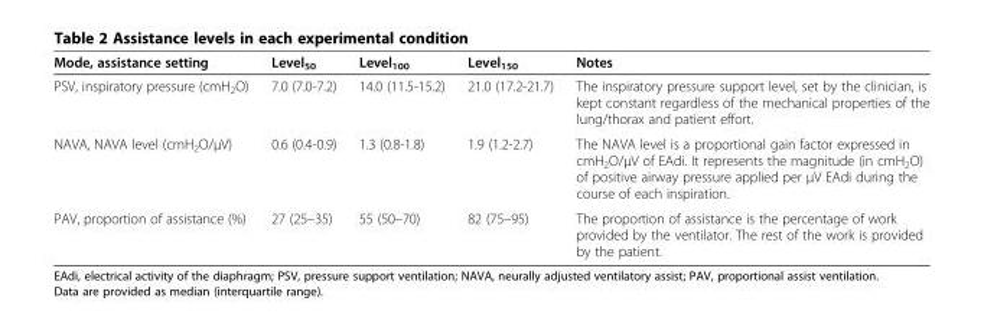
<table><thead><tr><td>Mode, assistance setting</td><td>Level<sub>50</sub></td><td>Level<sub>100</sub></td><td>Level<sub>150</sub></td><td>Notes</td></tr></thead><tbody><tr><td>PSV, inspiratory pressure (cmH<sub>2</sub>O)</td><td>7.0 (7.0-7.2)</td><td>14.0 (11.5-15.2)</td><td>21.0 (17.2-21.7)</td><td>The inspiratory pressure support level, set by the clinician, is kept constant regardless of the mechanical properties of the lung/thorax and patient effort.</td></tr><tr><td>NAVA, NAVA level (cmH<sub>2</sub>O/μV)</td><td>0.6 (0.4-0.9)</td><td>1.3 (0.8-1.8)</td><td>1.9 (1.2-2.7)</td><td>The NAVA level is a proportional gain factor expressed in cmH<sub>2</sub>O/μV of EAdi. It represents the magnitude (in cmH<sub>2</sub>O) of positive airway pressure applied per μV EAdi during the course of each inspiration.</td></tr><tr><td>PAV, proportion of assistance (%)</td><td>27 (25–35)</td><td>55 (50–70)</td><td>82 (75–95)</td><td>The proportion of assistance is the percentage of work provided by the ventilator. The rest of the work is provided by the patient.</td></tr></tbody></table>